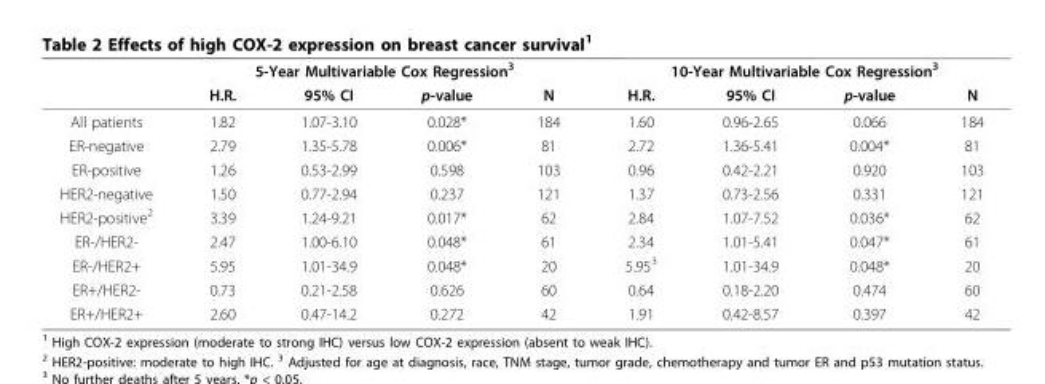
<table><thead><tr><td rowspan="2"></td><td colspan="4">5-Year Multivariable Cox Regression<sup>3</sup></td><td colspan="4">10-Year Multivariable Cox Regression<sup>3</sup></td></tr><tr><td>H.R.</td><td>95% CI</td><td>p-value</td><td>N</td><td>H.R.</td><td>95% CI</td><td>p-value</td><td>N</td></tr></thead><tbody><tr><td>All patients</td><td>1.82</td><td>1.07-3.10</td><td>0.028*</td><td>184</td><td>1.60</td><td>0.96-2.65</td><td>0.066</td><td>184</td></tr><tr><td>ER-negative</td><td>2.79</td><td>1.35-5.78</td><td>0.006*</td><td>81</td><td>2.72</td><td>1.36-5.41</td><td>0.004*</td><td>81</td></tr><tr><td>ER-positive</td><td>1.26</td><td>0.53-2.99</td><td>0.598</td><td>103</td><td>0.96</td><td>0.42-2.21</td><td>0.920</td><td>103</td></tr><tr><td>HER2-negative</td><td>1.50</td><td>0.77-2.94</td><td>0.237</td><td>121</td><td>1.37</td><td>0.73-2.56</td><td>0.331</td><td>121</td></tr><tr><td>HER2-positive<sup>2</sup></td><td>3.39</td><td>1.24-9.21</td><td>0.017*</td><td>62</td><td>2.84</td><td>1.07-7.52</td><td>0.036*</td><td>62</td></tr><tr><td>ER-/HER2-</td><td>2.47</td><td>1.00-6.10</td><td>0.048*</td><td>61</td><td>2.34</td><td>1.01-5.41</td><td>0.047*</td><td>61</td></tr><tr><td>ER-/HER2+</td><td>5.95</td><td>1.01-34.9</td><td>0.048*</td><td>20</td><td>5.95<sup>3</sup></td><td>1.01-34.9</td><td>0.048*</td><td>20</td></tr><tr><td>ER+/HER2-</td><td>0.73</td><td>0.21-2.58</td><td>0.626</td><td>60</td><td>0.64</td><td>0.18-2.20</td><td>0.474</td><td>60</td></tr><tr><td>ER+/HER2+</td><td>2.60</td><td>0.47-14.2</td><td>0.272</td><td>42</td><td>1.91</td><td>0.42-8.57</td><td>0.397</td><td>42</td></tr></tbody></table>